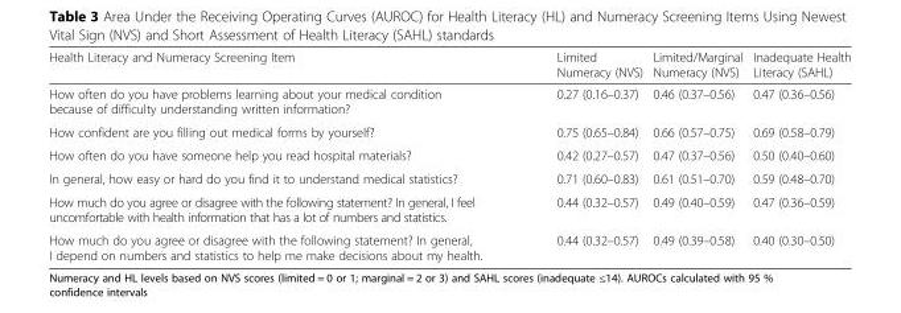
<table><thead><tr><td>Health Literacy and Numeracy Screening Item</td><td>Limited Numeracy (NVS)</td><td>Limited/Marginal Numeracy (NVS)</td><td>Inadequate Health Literacy (SAHL)</td></tr></thead><tbody><tr><td>How often do you have problems learning about your medical condition because of difficulty understanding written information?</td><td>0.27 (0.16–0.37)</td><td>0.46 (0.37–0.56)</td><td>0.47 (0.36–0.56)</td></tr><tr><td>How confident are you filling out medical forms by yourself?</td><td>0.75 (0.65–0.84)</td><td>0.66 (0.57–0.75)</td><td>0.69 (0.58–0.79)</td></tr><tr><td>How often do you have someone help you read hospital materials?</td><td>0.42 (0.27–0.57)</td><td>0.47 (0.37–0.56)</td><td>0.50 (0.40–0.60)</td></tr><tr><td>In general, how easy or hard do you find it to understand medical statistics?</td><td>0.71 (0.60–0.83)</td><td>0.61 (0.51–0.70)</td><td>0.59 (0.48–0.70)</td></tr><tr><td>How much do you agree or disagree with the following statement? In general, I feel uncomfortable with health information that has a lot of numbers and statistics.</td><td>0.44 (0.32–0.57)</td><td>0.49 (0.40–0.59)</td><td>0.47 (0.36–0.59)</td></tr><tr><td>How much do you agree or disagree with the following statement? In general, I depend on numbers and statistics to help me make decisions about my health.</td><td>0.44 (0.32–0.57)</td><td>0.49 (0.39–0.58)</td><td>0.40 (0.30–0.50)</td></tr></tbody></table>